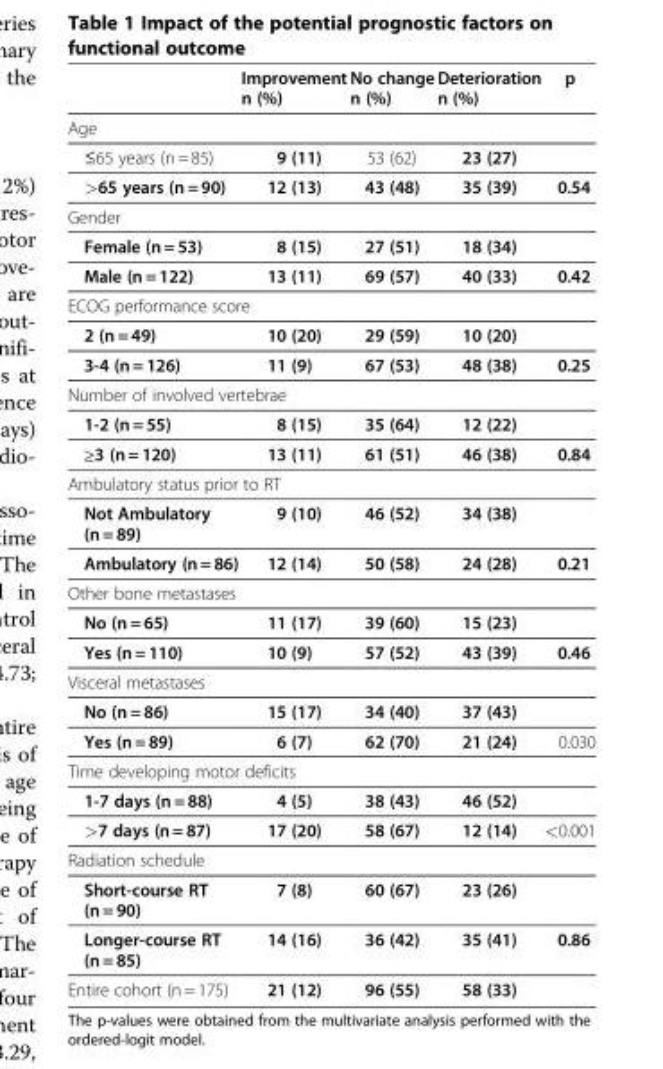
<table><thead><tr><td></td><td>Improvement n (%)</td><td>No change n (%)</td><td>Deterioration n (%)</td><td>p</td></tr></thead><tbody><tr><td colspan="5">Age</td></tr><tr><td>≤65 years (n = 85)</td><td>9 (11)</td><td>53 (62)</td><td>23 (27)</td><td></td></tr><tr><td>&gt;65 years (n = 90)</td><td>12 (13)</td><td>43 (48)</td><td>35 (39)</td><td>0.54</td></tr><tr><td colspan="5">Gender</td></tr><tr><td>Female (n = 53)</td><td>8 (15)</td><td>27 (51)</td><td>18 (34)</td><td></td></tr><tr><td>Male (n = 122)</td><td>13 (11)</td><td>69 (57)</td><td>40 (33)</td><td>0.42</td></tr><tr><td colspan="5">ECOG performance score</td></tr><tr><td>2 (n = 49)</td><td>10 (20)</td><td>29 (59)</td><td>10 (20)</td><td></td></tr><tr><td>3-4 (n = 126)</td><td>11 (9)</td><td>67 (53)</td><td>48 (38)</td><td>0.25</td></tr><tr><td colspan="5">Number of involved vertebrae</td></tr><tr><td>1-2 (n = 55)</td><td>8 (15)</td><td>35 (64)</td><td>12 (22)</td><td></td></tr><tr><td>≥3 (n = 120)</td><td>13 (11)</td><td>61 (51)</td><td>46 (38)</td><td>0.84</td></tr><tr><td colspan="5">Ambulatory status prior to RT</td></tr><tr><td>Not Ambulatory (n = 89)</td><td>9 (10)</td><td>46 (52)</td><td>34 (38)</td><td></td></tr><tr><td>Ambulatory (n = 86)</td><td>12 (14)</td><td>50 (58)</td><td>24 (28)</td><td>0.21</td></tr><tr><td colspan="5">Other bone metastases</td></tr><tr><td>No (n = 65)</td><td>11 (17)</td><td>39 (60)</td><td>15 (23)</td><td></td></tr><tr><td>Yes (n = 110)</td><td>10 (9)</td><td>57 (52)</td><td>43 (39)</td><td>0.46</td></tr><tr><td colspan="5">Visceral metastases</td></tr><tr><td>No (n = 86)</td><td>15 (17)</td><td>34 (40)</td><td>37 (43)</td><td></td></tr><tr><td>Yes (n = 89)</td><td>6 (7)</td><td>62 (70)</td><td>21 (24)</td><td>0.030</td></tr><tr><td colspan="5">Time developing motor deficits</td></tr><tr><td>1-7 days (n = 88)</td><td>4 (5)</td><td>38 (43)</td><td>46 (52)</td><td></td></tr><tr><td>&gt;7 days (n = 87)</td><td>17 (20)</td><td>58 (67)</td><td>12 (14)</td><td>&lt;0.001</td></tr><tr><td colspan="5">Radiation schedule</td></tr><tr><td>Short-course RT (n = 90)</td><td>7 (8)</td><td>60 (67)</td><td>23 (26)</td><td></td></tr><tr><td>Longer-course RT (n = 85)</td><td>14 (16)</td><td>36 (42)</td><td>35 (41)</td><td>0.86</td></tr><tr><td>Entire cohort (n = 175)</td><td>21 (12)</td><td>96 (55)</td><td>58 (33)</td><td></td></tr></tbody></table>